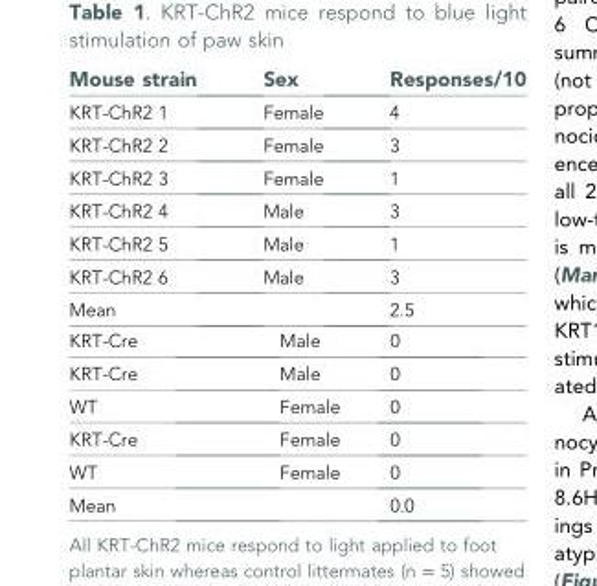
<table><thead><tr><td>Mouse strain</td><td>Sex</td><td>Responses/10</td></tr></thead><tbody><tr><td>KRT-ChR2 1</td><td>Female</td><td>4</td></tr><tr><td>KRT-ChR2 2</td><td>Female</td><td>3</td></tr><tr><td>KRT-ChR2 3</td><td>Female</td><td>1</td></tr><tr><td>KRT-ChR2 4</td><td>Male</td><td>3</td></tr><tr><td>KRT-ChR2 5</td><td>Male</td><td>1</td></tr><tr><td>KRT-ChR2 6</td><td>Male</td><td>3</td></tr><tr><td>Mean</td><td></td><td>2.5</td></tr><tr><td>KRT-Cre</td><td>Male</td><td>0</td></tr><tr><td>KRT-Cre</td><td>Male</td><td>0</td></tr><tr><td>WT</td><td>Female</td><td>0</td></tr><tr><td>KRT-Cre</td><td>Female</td><td>0</td></tr><tr><td>WT</td><td>Female</td><td>0</td></tr><tr><td>Mean</td><td></td><td>0.0</td></tr></tbody></table>